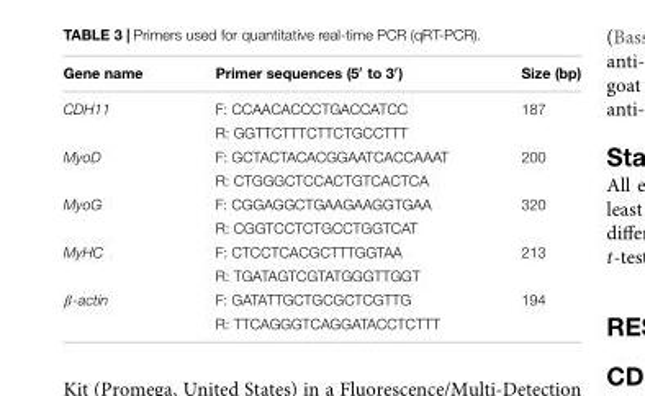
<table><thead><tr><td>Gene name</td><td>Primer sequences (5′ to 3′)</td><td>Size (bp)</td></tr></thead><tbody><tr><td rowspan="2">CDH11</td><td>F: CCAACACCCTGACCATCC</td><td>187</td></tr><tr><td>R: GGTTCTTTCTTCTGCCTTT</td><td></td></tr><tr><td rowspan="2">MyoD</td><td>F: GCTACTACACGGAATCACCAAAT</td><td>200</td></tr><tr><td>R: CTGGGCTCCACTGTCACTCA</td><td></td></tr><tr><td rowspan="2">MyoG</td><td>F: CGGAGGCTGAAGAAGGTGAA</td><td>320</td></tr><tr><td>R: CGGTCCTCTGCCTGGTCAT</td><td></td></tr><tr><td rowspan="2">MyHC</td><td>F: CTCCTCACGCTTTGGTAA</td><td>213</td></tr><tr><td>R: TGATAGTCGTATGGGTTGGT</td><td></td></tr><tr><td rowspan="2">β-actin</td><td>F: GATATTGCTGCGCTCGTTG</td><td>194</td></tr><tr><td>R: TTCAGGGTCAGGATACCTCTTT</td><td></td></tr></tbody></table>